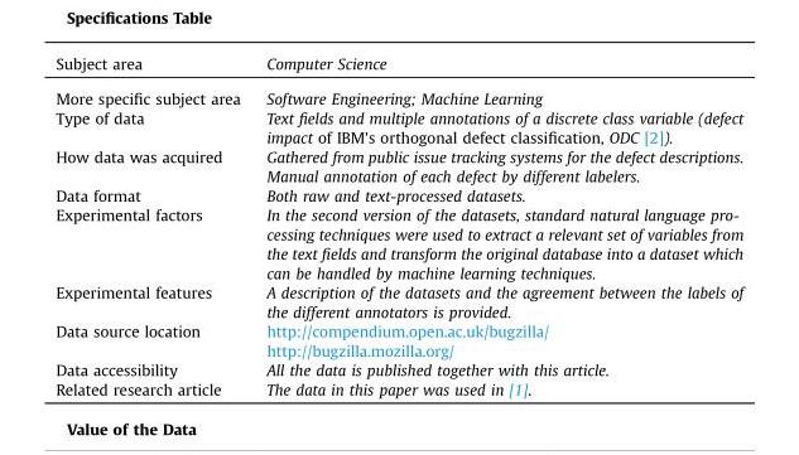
<table><thead><tr><td>Subject area</td><td>Computer Science</td></tr></thead><tbody><tr><td>More specific subject area</td><td>Software Engineering; Machine Learning</td></tr><tr><td>Type of data</td><td>Text fields and multiple annotations of a discrete class variable (defect impact of IBM&#x27;s orthogonal defect classification, ODC [2]).</td></tr><tr><td>How data was acquired</td><td>Gathered from public issue tracking systems for the defect descriptions. Manual annotation of each defect by different labelers.</td></tr><tr><td>Data format</td><td>Both raw and text-processed datasets.</td></tr><tr><td>Experimental factors</td><td>In the second version of the datasets, standard natural language pro- cessing techniques were used to extract a relevant set of variables from the text fields and transform the original database into a dataset which can be handled by machine learning techniques.</td></tr><tr><td>Experimental features</td><td>A description of the datasets and the agreement between the labels of the different annotators is provided.</td></tr><tr><td rowspan="2">Data source location</td><td>http://compendium.open.ac.uk/bugzilla/</td></tr><tr><td>http://bugzilla.mozilla.org/</td></tr><tr><td>Data accessibility</td><td>All the data is published together with this article.</td></tr><tr><td>Related research article</td><td>The data in this paper was used in [1].</td></tr></tbody></table>